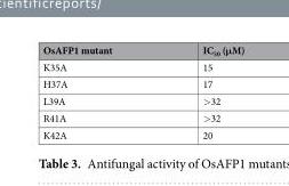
<table><thead><tr><td>OsAFP1 mutant</td><td>IC<sub>50</sub> (μM)</td></tr></thead><tbody><tr><td>K35A</td><td>15</td></tr><tr><td>H37A</td><td>17</td></tr><tr><td>L39A</td><td>&gt;32</td></tr><tr><td>R41A</td><td>&gt;32</td></tr><tr><td>K42A</td><td>20</td></tr></tbody></table>